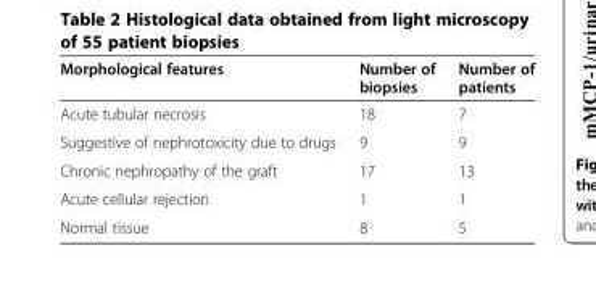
<table><thead><tr><td>Morphological features</td><td>Number of biopsies</td><td>Number of patients</td></tr></thead><tbody><tr><td>Acute tubular necrosis</td><td>18</td><td>7</td></tr><tr><td>Suggestive of nephrotoxicity due to drugs</td><td>9</td><td>9</td></tr><tr><td>Chronic nephropathy of the graft</td><td>17</td><td>13</td></tr><tr><td>Acute cellular rejection</td><td>1</td><td>1</td></tr><tr><td>Normal tissue</td><td>8</td><td>5</td></tr></tbody></table>